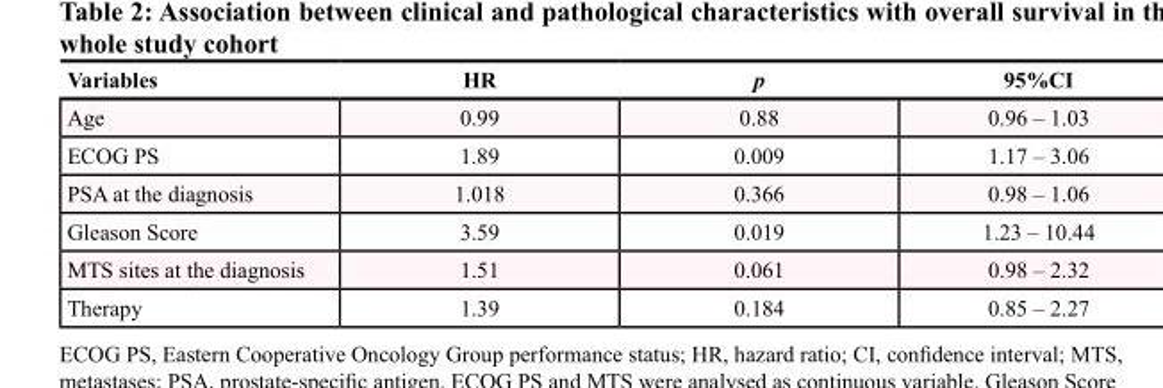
<table><thead><tr><td>Variables</td><td>HR</td><td>p</td><td>95%CI</td></tr></thead><tbody><tr><td>Age</td><td>0.99</td><td>0.88</td><td>0.96 – 1.03</td></tr><tr><td>ECOG PS</td><td>1.89</td><td>0.009</td><td>1.17 – 3.06</td></tr><tr><td>PSA at the diagnosis</td><td>1.018</td><td>0.366</td><td>0.98 – 1.06</td></tr><tr><td>Gleason Score</td><td>3.59</td><td>0.019</td><td>1.23 – 10.44</td></tr><tr><td>MTS sites at the diagnosis</td><td>1.51</td><td>0.061</td><td>0.98 – 2.32</td></tr><tr><td>Therapy</td><td>1.39</td><td>0.184</td><td>0.85 – 2.27</td></tr></tbody></table>